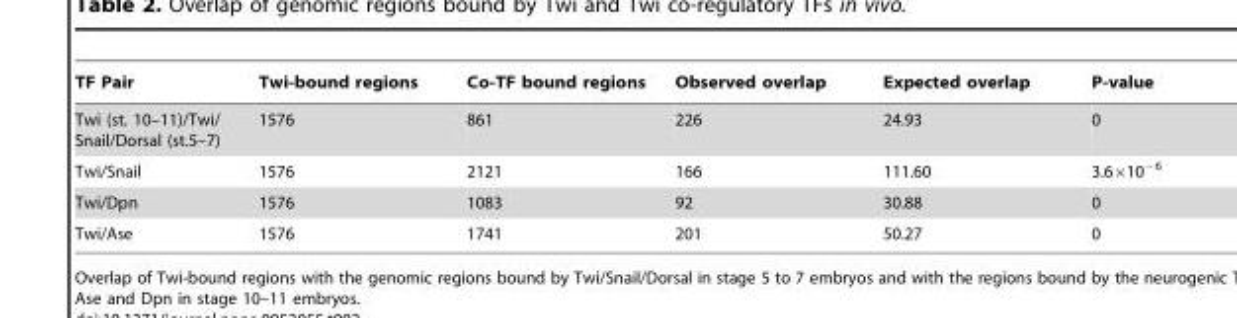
<table><thead><tr><td>TF Pair</td><td>Twi-bound regions</td><td>Co-TF bound regions</td><td>Observed overlap</td><td>Expected overlap</td><td>P-value</td></tr></thead><tbody><tr><td>Twi (st. 10–11)/Twi/ Snail/Dorsal (st.5–7)</td><td>1576</td><td>861</td><td>226</td><td>24.93</td><td>0</td></tr><tr><td>Twi/Snail</td><td>1576</td><td>2121</td><td>166</td><td>111.60</td><td>3.6×10<sup>−6</sup></td></tr><tr><td>Twi/Dpn</td><td>1576</td><td>1083</td><td>92</td><td>30.88</td><td>0</td></tr><tr><td>Twi/Ase</td><td>1576</td><td>1741</td><td>201</td><td>50.27</td><td>0</td></tr></tbody></table>